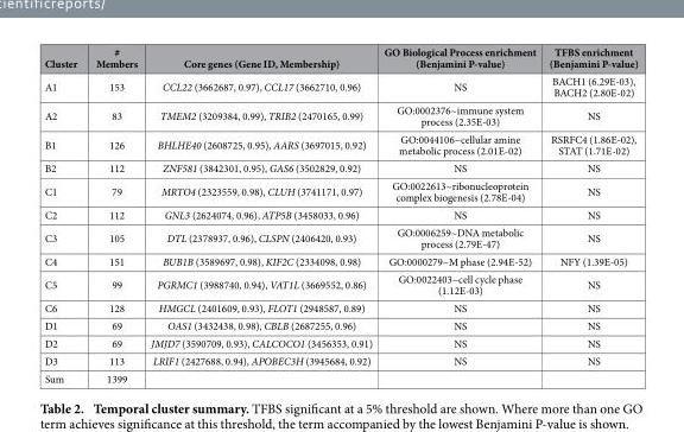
<table><thead><tr><td>Cluster</td><td># Members</td><td>Core genes (Gene ID, Membership)</td><td>GO Biological Process enrichment (Benjamini P-value)</td><td>TFBS enrichment (Benjamini P-value)</td></tr></thead><tbody><tr><td>A1</td><td>153</td><td>CCL22 (3662687, 0.97), CCL17 (3662710, 0.96)</td><td>NS</td><td>BACH1 (6.29E-03), BACH2 (2.80E-02)</td></tr><tr><td>A2</td><td>83</td><td>TMEM2 (3209384, 0.99), TRIB2 (2470165, 0.99)</td><td>GO:0002376~immune system process (2.35E-03)</td><td>NS</td></tr><tr><td>B1</td><td>126</td><td>BHLHE40 (2608725, 0.95), AARS (3697015, 0.92)</td><td>GO:0044106~cellular amine metabolic process (2.01E-02)</td><td>RSRFC4 (1.86E-02), STAT (1.71E-02)</td></tr><tr><td>B2</td><td>112</td><td>ZNF581 (3842301, 0.95), GAS6 (3502829, 0.92)</td><td>NS</td><td>NS</td></tr><tr><td>C1</td><td>79</td><td>MRTO4 (2323559, 0.98), CLUH (3741171, 0.97)</td><td>GO:0022613~ribonucleoprotein complex biogenesis (2.78E-04)</td><td>NS</td></tr><tr><td>C2</td><td>112</td><td>GNL3 (2624074, 0.96), ATP5B (3458033, 0.96)</td><td>NS</td><td>NS</td></tr><tr><td>C3</td><td>105</td><td>DTL (2378937, 0.96), CLSPN (2406420, 0.93)</td><td>GO:0006259~DNA metabolic process (2.79E-47)</td><td>NS</td></tr><tr><td>C4</td><td>151</td><td>BUB1B (3589697, 0.98), KIF2C (2334098, 0.98)</td><td>GO:0000279~M phase (2.94E-52)</td><td>NFY (1.39E-05)</td></tr><tr><td>C5</td><td>99</td><td>PGRMC1 (3988740, 0.94), VAT1L (3669552, 0.86)</td><td>GO:0022403~cell cycle phase (1.12E-03)</td><td>NS</td></tr><tr><td>C6</td><td>128</td><td>HMGCL (2401609, 0.93), FLOT1 (2948587, 0.89)</td><td>NS</td><td>NS</td></tr><tr><td>D1</td><td>69</td><td>OAS1 (3432438, 0.98), CBLB (2687255, 0.96)</td><td>NS</td><td>NS</td></tr><tr><td>D2</td><td>69</td><td>JMJD7 (3590709, 0.93), CALCOCO1 (3456353, 0.91)</td><td>NS</td><td>NS</td></tr><tr><td>D3</td><td>113</td><td>LRIF1 (2427688, 0.94), APOBEC3H (3945684, 0.92)</td><td>NS</td><td>NS</td></tr><tr><td>Sum</td><td>1399</td><td></td><td></td><td></td></tr></tbody></table>